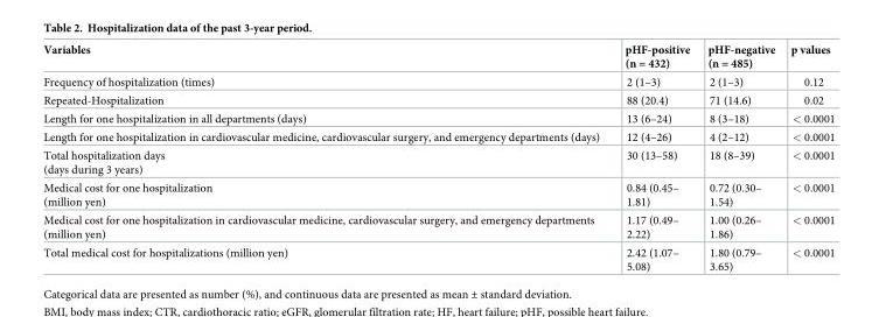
<table><thead><tr><td>Variables</td><td>pHF-positive (n = 432)</td><td>pHF-negative (n = 485)</td><td>p values</td></tr></thead><tbody><tr><td>Frequency of hospitalization (times)</td><td>2 (1–3)</td><td>2 (1–3)</td><td>0.12</td></tr><tr><td>Repeated-Hospitalization</td><td>88 (20.4)</td><td>71 (14.6)</td><td>0.02</td></tr><tr><td>Length for one hospitalization in all departments (days)</td><td>13 (6–24)</td><td>8 (3–18)</td><td>&lt; 0.0001</td></tr><tr><td>Length for one hospitalization in cardiovascular medicine, cardiovascular surgery, and emergency departments (days)</td><td>12 (4–26)</td><td>4 (2–12)</td><td>&lt; 0.0001</td></tr><tr><td>Total hospitalization days (days during 3 years)</td><td>30 (13–58)</td><td>18 (8–39)</td><td>&lt; 0.0001</td></tr><tr><td>Medical cost for one hospitalization (million yen)</td><td>0.84 (0.45– 1.81)</td><td>0.72 (0.30– 1.54)</td><td>&lt; 0.0001</td></tr><tr><td>Medical cost for one hospitalization in cardiovascular medicine, cardiovascular surgery, and emergency departments (million yen)</td><td>1.17 (0.49– 2.22)</td><td>1.00 (0.26– 1.86)</td><td>&lt; 0.0001</td></tr><tr><td>Total medical cost for hospitalizations (million yen)</td><td>2.42 (1.07– 5.08)</td><td>1.80 (0.79– 3.65)</td><td>&lt; 0.0001</td></tr></tbody></table>